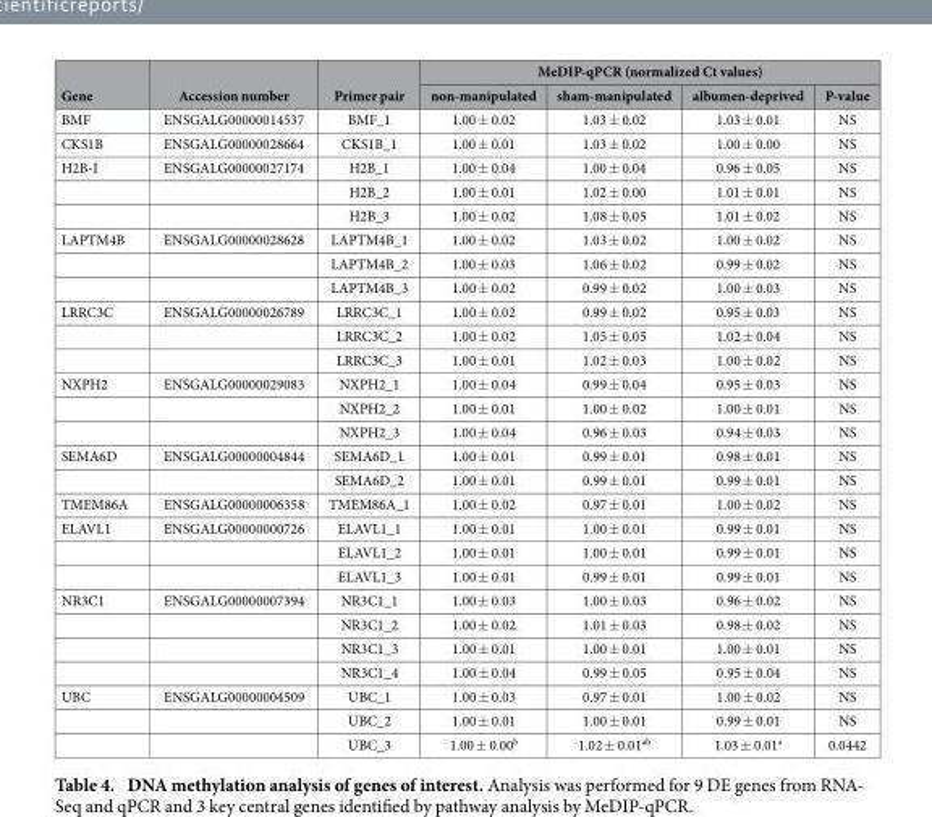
<table><thead><tr><td rowspan="2">Gene</td><td rowspan="2">Accession number</td><td rowspan="2">Primer pair</td><td colspan="4">MeDIP-qPCR (normalized Ct values)</td></tr><tr><td>non-manipulated</td><td>sham-manipulated</td><td>albumen-deprived</td><td>P-value</td></tr></thead><tbody><tr><td>BMF</td><td>ENSGALG00000014537</td><td>BMF_1</td><td>1.00 ± 0.02</td><td>1.03 ± 0.02</td><td>1.03 ± 0.01</td><td>NS</td></tr><tr><td>CKS1B</td><td>ENSGALG00000028664</td><td>CKS1B_1</td><td>1.00 ± 0.01</td><td>1.03 ± 0.02</td><td>1.00 ± 0.00</td><td>NS</td></tr><tr><td rowspan="3">H2B-I</td><td>ENSGALG00000027174</td><td>H2B_1</td><td>1.00 ± 0.04</td><td>1.00 ± 0.04</td><td>0.96 ± 0.05</td><td>NS</td></tr><tr><td></td><td>H2B_2</td><td>1.00 ± 0.01</td><td>1.02 ± 0.00</td><td>1.01 ± 0.01</td><td>NS</td></tr><tr><td></td><td>H2B_3</td><td>1.00 ± 0.02</td><td>1.08 ± 0.05</td><td>1.01 ± 0.02</td><td>NS</td></tr><tr><td rowspan="3">LAPTM4B</td><td>ENSGALG00000028628</td><td>LAPTM4B_1</td><td>1.00 ± 0.02</td><td>1.03 ± 0.02</td><td>1.00 ± 0.02</td><td>NS</td></tr><tr><td></td><td>LAPTM4B_2</td><td>1.00 ± 0.03</td><td>1.06 ± 0.02</td><td>0.99 ± 0.02</td><td>NS</td></tr><tr><td></td><td>LAPTM4B_3</td><td>1.00 ± 0.02</td><td>0.99 ± 0.02</td><td>1.00 ± 0.03</td><td>NS</td></tr><tr><td rowspan="3">LRRC3C</td><td>ENSGALG00000026789</td><td>LRRC3C_1</td><td>1.00 ± 0.02</td><td>0.99 ± 0.02</td><td>0.95 ± 0.03</td><td>NS</td></tr><tr><td></td><td>LRRC3C_2</td><td>1.00 ± 0.02</td><td>1.05 ± 0.05</td><td>1.02 ± 0.04</td><td>NS</td></tr><tr><td></td><td>LRRC3C_3</td><td>1.00 ± 0.01</td><td>1.02 ± 0.03</td><td>1.00 ± 0.02</td><td>NS</td></tr><tr><td rowspan="3">NXPH2</td><td>ENSGALG00000029083</td><td>NXPH2_1</td><td>1.00 ± 0.04</td><td>0.99 ± 0.04</td><td>0.95 ± 0.03</td><td>NS</td></tr><tr><td></td><td>NXPH2_2</td><td>1.00 ± 0.01</td><td>1.00 ± 0.02</td><td>1.00 ± 0.01</td><td>NS</td></tr><tr><td></td><td>NXPH2_3</td><td>1.00 ± 0.04</td><td>0.96 ± 0.03</td><td>0.94 ± 0.03</td><td>NS</td></tr><tr><td rowspan="2">SEMA6D</td><td>ENSGALG00000004844</td><td>SEMA6D_1</td><td>1.00 ± 0.01</td><td>0.99 ± 0.01</td><td>0.98 ± 0.01</td><td>NS</td></tr><tr><td></td><td>SEMA6D_2</td><td>1.00 ± 0.01</td><td>0.99 ± 0.01</td><td>0.99 ± 0.01</td><td>NS</td></tr><tr><td>TMEM86A</td><td>ENSGALG00000006358</td><td>TMEM86A_1</td><td>1.00 ± 0.02</td><td>0.97 ± 0.01</td><td>1.00 ± 0.02</td><td>NS</td></tr><tr><td rowspan="3">ELAVL1</td><td>ENSGALG00000000726</td><td>ELAVL1_1</td><td>1.00 ± 0.01</td><td>1.00 ± 0.01</td><td>0.99 ± 0.01</td><td>NS</td></tr><tr><td></td><td>ELAVL1_2</td><td>1.00 ± 0.01</td><td>1.00 ± 0.01</td><td>0.99 ± 0.01</td><td>NS</td></tr><tr><td></td><td>ELAVL1_3</td><td>1.00 ± 0.01</td><td>0.99 ± 0.01</td><td>0.99 ± 0.01</td><td>NS</td></tr><tr><td rowspan="4">NR3C1</td><td>ENSGALG00000007394</td><td>NR3C1_1</td><td>1.00 ± 0.03</td><td>1.00 ± 0.03</td><td>0.96 ± 0.02</td><td>NS</td></tr><tr><td></td><td>NR3C1_2</td><td>1.00 ± 0.02</td><td>1.01 ± 0.03</td><td>0.98 ± 0.02</td><td>NS</td></tr><tr><td></td><td>NR3C1_3</td><td>1.00 ± 0.01</td><td>1.00 ± 0.01</td><td>1.00 ± 0.01</td><td>NS</td></tr><tr><td></td><td>NR3C1_4</td><td>1.00 ± 0.04</td><td>0.99 ± 0.05</td><td>0.95 ± 0.04</td><td>NS</td></tr><tr><td rowspan="3">UBC</td><td>ENSGALG00000004509</td><td>UBC_1</td><td>1.00 ± 0.03</td><td>0.97 ± 0.01</td><td>1.00 ± 0.02</td><td>NS</td></tr><tr><td></td><td>UBC_2</td><td>1.00 ± 0.01</td><td>1.00 ± 0.01</td><td>0.99 ± 0.01</td><td>NS</td></tr><tr><td></td><td>UBC_3</td><td>1.00 ± 0.00<sup>b</sup></td><td>1.02 ± 0.01<sup>ab</sup></td><td>1.03 ± 0.01<sup>a</sup></td><td>0.0442</td></tr></tbody></table>